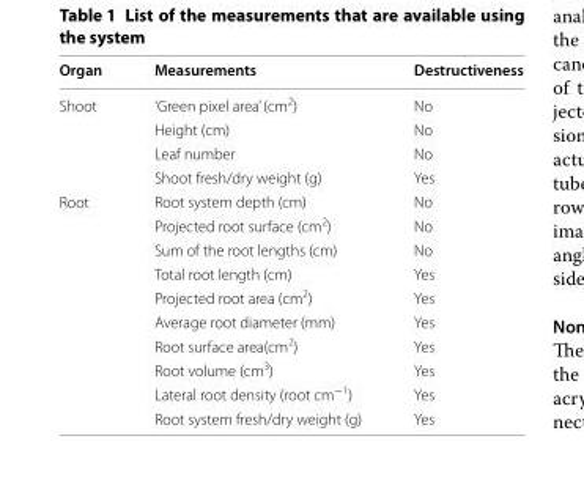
<table><thead><tr><td>Organ</td><td>Measurements</td><td>Destructiveness</td></tr></thead><tbody><tr><td rowspan="4">Shoot</td><td>‘Green pixel area’ (cm<sup>2</sup>)</td><td>No</td></tr><tr><td>Height (cm)</td><td>No</td></tr><tr><td>Leaf number</td><td>No</td></tr><tr><td>Shoot fresh/dry weight (g)</td><td>Yes</td></tr><tr><td rowspan="10">Root</td><td>Root system depth (cm)</td><td>No</td></tr><tr><td>Projected root surface (cm<sup>2</sup>)</td><td>No</td></tr><tr><td>Sum of the root lengths (cm)</td><td>No</td></tr><tr><td>Total root length (cm)</td><td>Yes</td></tr><tr><td>Projected root area (cm<sup>2</sup>)</td><td>Yes</td></tr><tr><td>Average root diameter (mm)</td><td>Yes</td></tr><tr><td>Root surface area(cm<sup>2</sup>)</td><td>Yes</td></tr><tr><td>Root volume (cm<sup>3</sup>)</td><td>Yes</td></tr><tr><td>Lateral root density (root cm<sup>−1</sup>)</td><td>Yes</td></tr><tr><td>Root system fresh/dry weight (g)</td><td>Yes</td></tr></tbody></table>